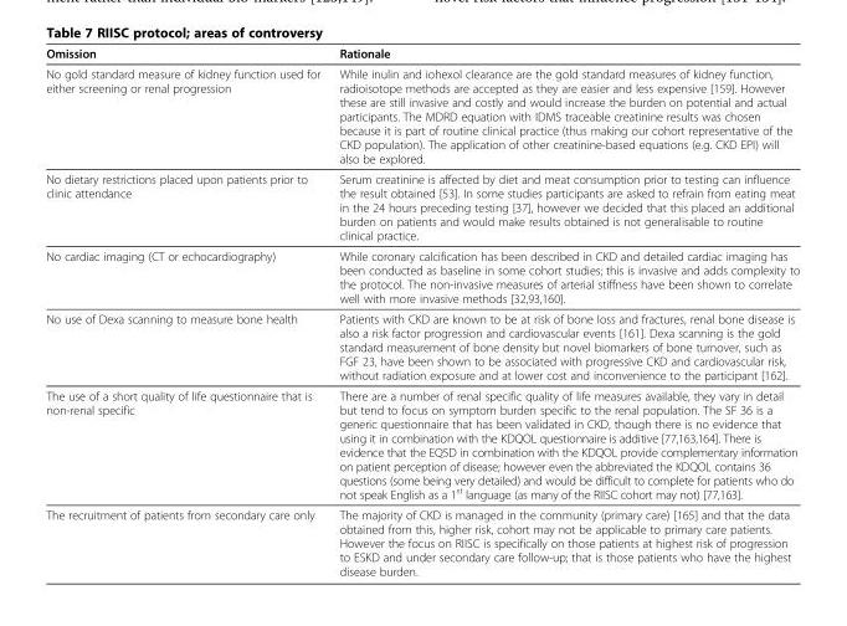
<table><thead><tr><td>Omission</td><td>Rationale</td></tr></thead><tbody><tr><td>No gold standard measure of kidney function used for either screening or renal progression</td><td>While inulin and iohexol clearance are the gold standard measures of kidney function, radioisotope methods are accepted as they are easier and less expensive [159]. However these are still invasive and costly and would increase the burden on potential and actual participants. The MDRD equation with IDMS traceable creatinine results was chosen because it is part of routine clinical practice (thus making our cohort representative of the CKD population). The application of other creatinine-based equations (e.g. CKD EPI) will also be explored.</td></tr><tr><td>No dietary restrictions placed upon patients prior to clinic attendance</td><td>Serum creatinine is affected by diet and meat consumption prior to testing can influence the result obtained [53]. In some studies participants are asked to refrain from eating meat in the 24 hours preceding testing [37], however we decided that this placed an additional burden on patients and would make results obtained is not generalisable to routine clinical practice.</td></tr><tr><td>No cardiac imaging (CT or echocardiography)</td><td>While coronary calcification has been described in CKD and detailed cardiac imaging has been conducted as baseline in some cohort studies; this is invasive and adds complexity to the protocol. The non-invasive measures of arterial stiffness have been shown to correlate well with more invasive methods [32,93,160].</td></tr><tr><td>No use of Dexa scanning to measure bone health</td><td>Patients with CKD are known to be at risk of bone loss and fractures, renal bone disease is also a risk factor progression and cardiovascular events [161]. Dexa scanning is the gold standard measurement of bone density but novel biomarkers of bone turnover, such as FGF 23, have been shown to be associated with progressive CKD and cardiovascular risk, without radiation exposure and at lower cost and inconvenience to the participant [162].</td></tr><tr><td>The use of a short quality of life questionnaire that is non-renal specific</td><td>There are a number of renal specific quality of life measures available, they vary in detail but tend to focus on symptom burden specific to the renal population. The SF 36 is a generic questionnaire that has been validated in CKD, though there is no evidence that using it in combination with the KDQOL questionnaire is additive [77,163,164]. There is evidence that the EQ5D in combination with the KDQOL provide complementary information on patient perception of disease; however even the abbreviated the KDQOL contains 36 questions (some being very detailed) and would be difficult to complete for patients who do not speak English as a 1<sup>st</sup> language (as many of the RIISC cohort may not) [77,163].</td></tr><tr><td>The recruitment of patients from secondary care only</td><td>The majority of CKD is managed in the community (primary care) [165] and that the data obtained from this, higher risk, cohort may not be applicable to primary care patients. However the focus on RIISC is specifically on those patients at highest risk of progression to ESKD and under secondary care follow-up; that is those patients who have the highest disease burden.</td></tr></tbody></table>